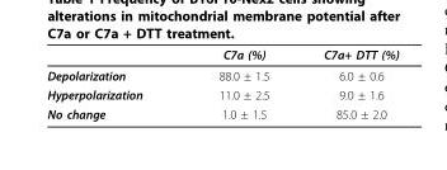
<table><thead><tr><td></td><td>C7a (%)</td><td>C7a+ DTT (%)</td></tr></thead><tbody><tr><td>Depolarization</td><td>88.0 ± 1.5</td><td>6.0 ± 0.6</td></tr><tr><td>Hyperpolarization</td><td>11.0 ± 2.5</td><td>9.0 ± 1.6</td></tr><tr><td>No change</td><td>1.0 ± 1.5</td><td>85.0 ± 2.0</td></tr></tbody></table>